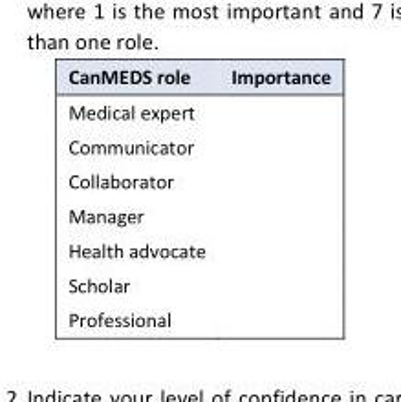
<table><thead><tr><td>CanMEDS role</td><td>Importance</td></tr></thead><tbody><tr><td colspan="2">Medical expert</td></tr><tr><td colspan="2">Communicator</td></tr><tr><td colspan="2">Collaborator</td></tr><tr><td colspan="2">Manager</td></tr><tr><td colspan="2">Health advocate</td></tr><tr><td colspan="2">Scholar</td></tr><tr><td>Professional</td><td></td></tr></tbody></table>